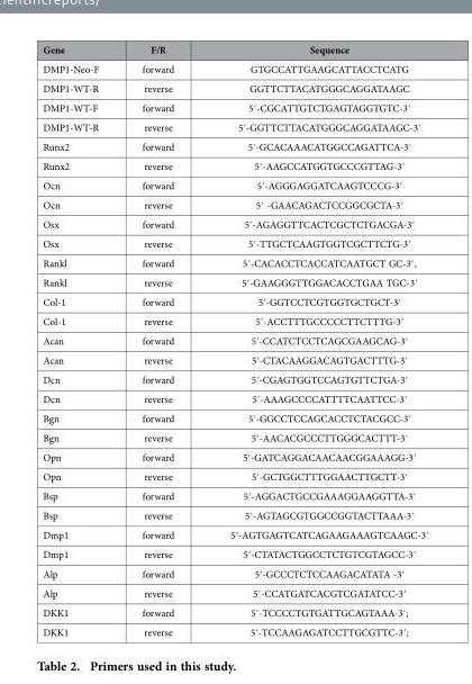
<table><thead><tr><td>Gene</td><td>F/R</td><td>Sequence</td></tr></thead><tbody><tr><td>DMP1-Neo-F</td><td>forward</td><td>GTGCCATTGAAGCATTACCTCATG</td></tr><tr><td>DMP1-WT-R</td><td>reverse</td><td>GGTTCTTACATGGGCAGGATAAGC</td></tr><tr><td>DMP1-WT-F</td><td>forward</td><td>5′-CGCATTGTCTGAGTAGGTGTC-3′</td></tr><tr><td>DMP1-WT-R</td><td>reverse</td><td>5′-GGTTCTTACATGGGCAGGATAAGC-3′</td></tr><tr><td>Runx2</td><td>forward</td><td>5′-GCACAAACATGGCCAGATTCA-3′</td></tr><tr><td>Runx2</td><td>reverse</td><td>5′-AAGCCATGGTGCCCGTTAG-3′</td></tr><tr><td>Ocn</td><td>forward</td><td>5′-AGGGAGGATCAAGTCCCG-3′</td></tr><tr><td>Ocn</td><td>reverse</td><td>5′ -GAACAGACTCCGGCGCTA-3′</td></tr><tr><td>Osx</td><td>forward</td><td>5′-AGAGGTTCACTCGCTCTGACGA-3′</td></tr><tr><td>Osx</td><td>reverse</td><td>5′-TTGCTCAAGTGGTCGCTTCTG-3′</td></tr><tr><td>Rankl</td><td>forward</td><td>5′-CACACCTCACCATCAATGCT GC-3′ ,</td></tr><tr><td>Rankl</td><td>reverse</td><td>5′-GAAGGGTTGGACACCTGAA TGC-3′</td></tr><tr><td>Col-1</td><td>forward</td><td>5′-GGTCCTCGTGGTGCTGCT-3′</td></tr><tr><td>Col-1</td><td>reverse</td><td>5′-ACCTTTGCCCCCTTCTTTG-3′</td></tr><tr><td>Acan</td><td>forward</td><td>5′-CCATCTCCTCAGCGAAGCAG-3′</td></tr><tr><td>Acan</td><td>reverse</td><td>5′-CTACAAGGACAGTGACTTTG-3′</td></tr><tr><td>Dcn</td><td>forward</td><td>5′-CGAGTGGTCCAGTGTTCTGA-3′</td></tr><tr><td>Dcn</td><td>reverse</td><td>5′-AAAGCCCCATTTTCAATTCC-3′</td></tr><tr><td>Bgn</td><td>forward</td><td>5′-GGCCTCCAGCACCTCTACGCC-3′</td></tr><tr><td>Bgn</td><td>reverse</td><td>5′-AACACGCCCTTGGGCACTTT-3′</td></tr><tr><td>Opn</td><td>forward</td><td>5′-GATCAGGACAACAACGGAAAGG-3′</td></tr><tr><td>Opn</td><td>reverse</td><td>5′-GCTGGCTTTGGAACTTGCTT-3′</td></tr><tr><td>Bsp</td><td>forward</td><td>5′-AGGACTGCCGAAAGGAAGGTTA-3′</td></tr><tr><td>Bsp</td><td>reverse</td><td>5′-AGTAGCGTGGCCGGTACTTAAA-3′</td></tr><tr><td>Dmp1</td><td>forward</td><td>5′-AGTGAGTCATCAGAAGAAAGTCAAGC-3′</td></tr><tr><td>Dmp1</td><td>reverse</td><td>5′-CTATACTGGCCTCTGTCGTAGCC-3′</td></tr><tr><td>Alp</td><td>forward</td><td>5′-GCCCTCTCCAAGACATATA -3′</td></tr><tr><td>Alp</td><td>reverse</td><td>5′-CCATGATCACGTCGATATCC-3′</td></tr><tr><td>DKK1</td><td>forward</td><td>5′-TCCCCTGTGATTGCAGTAAA-3′ ;</td></tr><tr><td>DKK1</td><td>reverse</td><td>5′-TCCAAGAGATCCTTGCGTTC-3′ ;</td></tr></tbody></table>